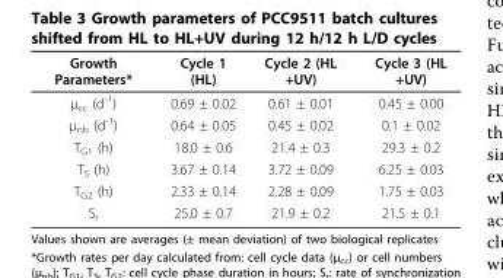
<table><thead><tr><td>Growth Parameters*</td><td>Cycle 1 (HL)</td><td>Cycle 2 (HL +UV)</td><td>Cycle 3 (HL +UV)</td></tr></thead><tbody><tr><td>μ<sub>cc</sub> (d<sup>-1</sup>)</td><td>0.69 ± 0.02</td><td>0.61 ± 0.01</td><td>0.45 ± 0.00</td></tr><tr><td>μ<sub>nb</sub> (d<sup>-1</sup>)</td><td>0.64 ± 0.05</td><td>0.45 ± 0.02</td><td>0.1 ± 0.02</td></tr><tr><td>T<sub>G1</sub> (h)</td><td>18.0 ± 0.6</td><td>21.4 ± 0.3</td><td>29.3 ± 0.2</td></tr><tr><td>T<sub>S</sub> (h)</td><td>3.67 ± 0.14</td><td>3.72 ± 0.09</td><td>6.25 ± 0.03</td></tr><tr><td>T<sub>G2</sub> (h)</td><td>2.33 ± 0.14</td><td>2.28 ± 0.09</td><td>1.75 ± 0.03</td></tr><tr><td>S<sub>r</sub></td><td>25.0 ± 0.7</td><td>21.9 ± 0.2</td><td>21.5 ± 0.1</td></tr></tbody></table>